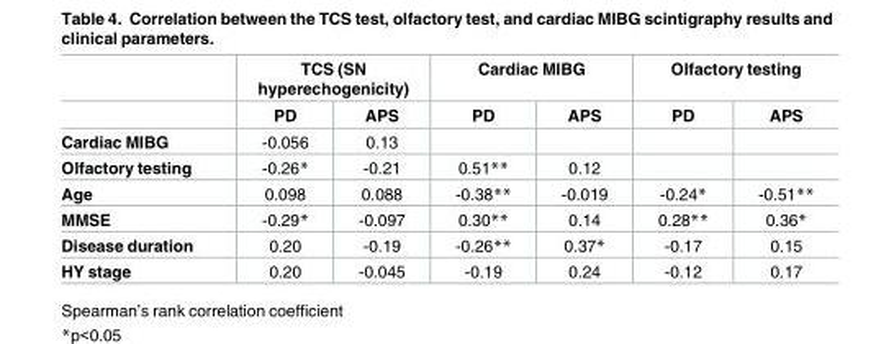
<table><thead><tr><td rowspan="2"></td><td colspan="2">TCS (SN hyperechogenicity)</td><td colspan="2">Cardiac MIBG</td><td colspan="2">Olfactory testing</td></tr><tr><td>PD</td><td>APS</td><td>PD</td><td>APS</td><td>PD</td><td>APS</td></tr></thead><tbody><tr><td>Cardiac MIBG</td><td>-0.056</td><td>0.13</td><td></td><td></td><td></td><td></td></tr><tr><td>Olfactory testing</td><td>-0.26*</td><td>-0.21</td><td>0.51**</td><td>0.12</td><td></td><td></td></tr><tr><td>Age</td><td>0.098</td><td>0.088</td><td>-0.38**</td><td>-0.019</td><td>-0.24*</td><td>-0.51**</td></tr><tr><td>MMSE</td><td>-0.29*</td><td>-0.097</td><td>0.30**</td><td>0.14</td><td>0.28**</td><td>0.36*</td></tr><tr><td>Disease duration</td><td>0.20</td><td>-0.19</td><td>-0.26**</td><td>0.37*</td><td>-0.17</td><td>0.15</td></tr><tr><td>HY stage</td><td>0.20</td><td>-0.045</td><td>-0.19</td><td>0.24</td><td>-0.12</td><td>0.17</td></tr></tbody></table>